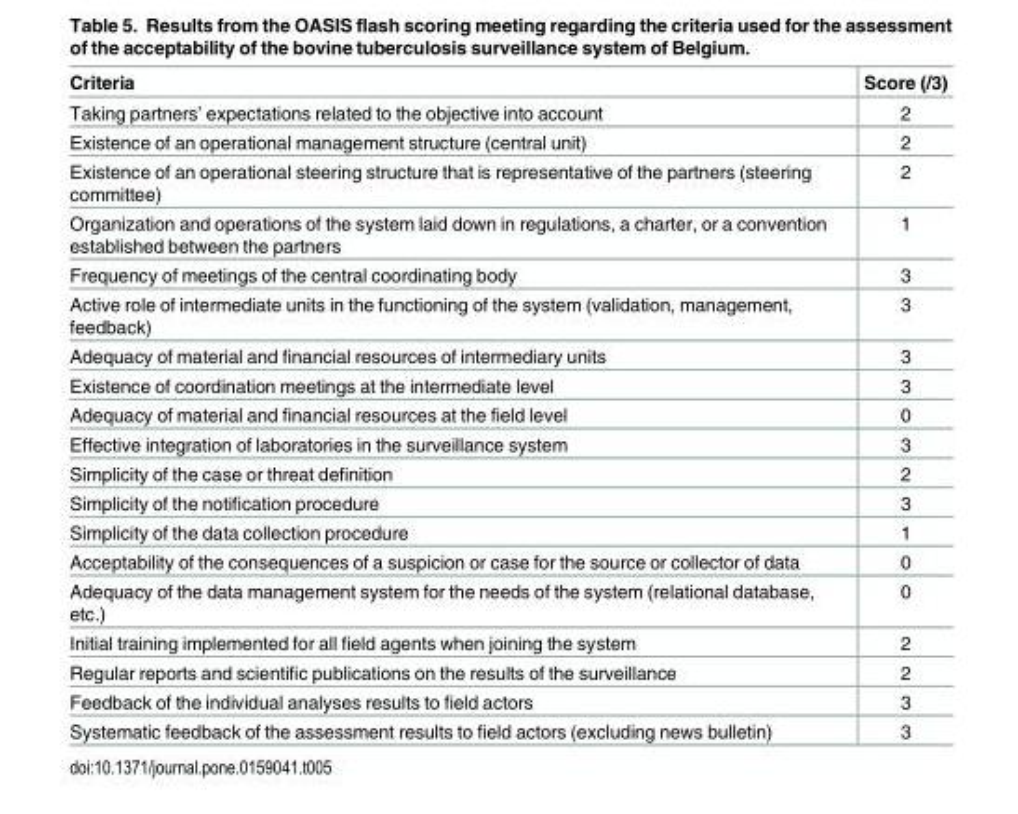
<table><thead><tr><td>Criteria</td><td>Score (/3)</td></tr></thead><tbody><tr><td>Taking partners’ expectations related to the objective into account</td><td>2</td></tr><tr><td>Existence of an operational management structure (central unit)</td><td>2</td></tr><tr><td>Existence of an operational steering structure that is representative of the partners (steering committee)</td><td>2</td></tr><tr><td>Organization and operations of the system laid down in regulations, a charter, or a convention established between the partners</td><td>1</td></tr><tr><td>Frequency of meetings of the central coordinating body</td><td>3</td></tr><tr><td>Active role of intermediate units in the functioning of the system (validation, management, feedback)</td><td>3</td></tr><tr><td>Adequacy of material and financial resources of intermediary units</td><td>3</td></tr><tr><td>Existence of coordination meetings at the intermediate level</td><td>3</td></tr><tr><td>Adequacy of material and financial resources at the field level</td><td>0</td></tr><tr><td>Effective integration of laboratories in the surveillance system</td><td>3</td></tr><tr><td>Simplicity of the case or threat definition</td><td>2</td></tr><tr><td>Simplicity of the notification procedure</td><td>3</td></tr><tr><td>Simplicity of the data collection procedure</td><td>1</td></tr><tr><td>Acceptability of the consequences of a suspicion or case for the source or collector of data</td><td>0</td></tr><tr><td>Adequacy of the data management system for the needs of the system (relational database, etc.)</td><td>0</td></tr><tr><td>Initial training implemented for all field agents when joining the system</td><td>2</td></tr><tr><td>Regular reports and scientific publications on the results of the surveillance</td><td>2</td></tr><tr><td>Feedback of the individual analyses results to field actors</td><td>3</td></tr><tr><td>Systematic feedback of the assessment results to field actors (excluding news bulletin)</td><td>3</td></tr></tbody></table>